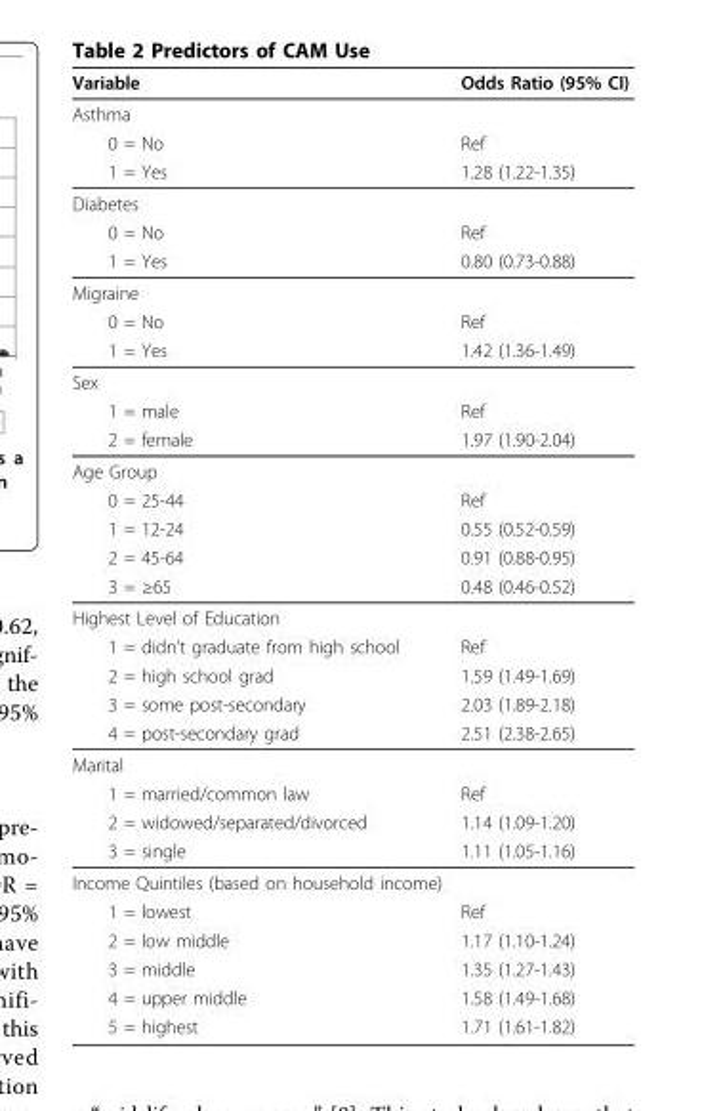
<table><thead><tr><td>Variable</td><td>Odds Ratio (95% CI)</td></tr></thead><tbody><tr><td colspan="2">Asthma</td></tr><tr><td>0 = No</td><td>Ref</td></tr><tr><td>1 = Yes</td><td>1.28 (1.22-1.35)</td></tr><tr><td colspan="2">Diabetes</td></tr><tr><td>0 = No</td><td>Ref</td></tr><tr><td>1 = Yes</td><td>0.80 (0.73-0.88)</td></tr><tr><td colspan="2">Migraine</td></tr><tr><td>0 = No</td><td>Ref</td></tr><tr><td>1 = Yes</td><td>1.42 (1.36-1.49)</td></tr><tr><td colspan="2">Sex</td></tr><tr><td>1 = male</td><td>Ref</td></tr><tr><td>2 = female</td><td>1.97 (1.90-2.04)</td></tr><tr><td colspan="2">Age Group</td></tr><tr><td>0 = 25-44</td><td>Ref</td></tr><tr><td>1 = 12-24</td><td>0.55 (0.52-0.59)</td></tr><tr><td>2 = 45-64</td><td>0.91 (0.88-0.95)</td></tr><tr><td>3 = ≥65</td><td>0.48 (0.46-0.52)</td></tr><tr><td colspan="2">Highest Level of Education</td></tr><tr><td>1 = didn’t graduate from high school</td><td>Ref</td></tr><tr><td>2 = high school grad</td><td>1.59 (1.49-1.69)</td></tr><tr><td>3 = some post-secondary</td><td>2.03 (1.89-2.18)</td></tr><tr><td>4 = post-secondary grad</td><td>2.51 (2.38-2.65)</td></tr><tr><td colspan="2">Marital</td></tr><tr><td>1 = married/common law</td><td>Ref</td></tr><tr><td>2 = widowed/separated/divorced</td><td>1.14 (1.09-1.20)</td></tr><tr><td>3 = single</td><td>1.11 (1.05-1.16)</td></tr><tr><td colspan="2">Income Quintiles (based on household income)</td></tr><tr><td>1 = lowest</td><td>Ref</td></tr><tr><td>2 = low middle</td><td>1.17 (1.10-1.24)</td></tr><tr><td>3 = middle</td><td>1.35 (1.27-1.43)</td></tr><tr><td>4 = upper middle</td><td>1.58 (1.49-1.68)</td></tr><tr><td>5 = highest</td><td>1.71 (1.61-1.82)</td></tr></tbody></table>